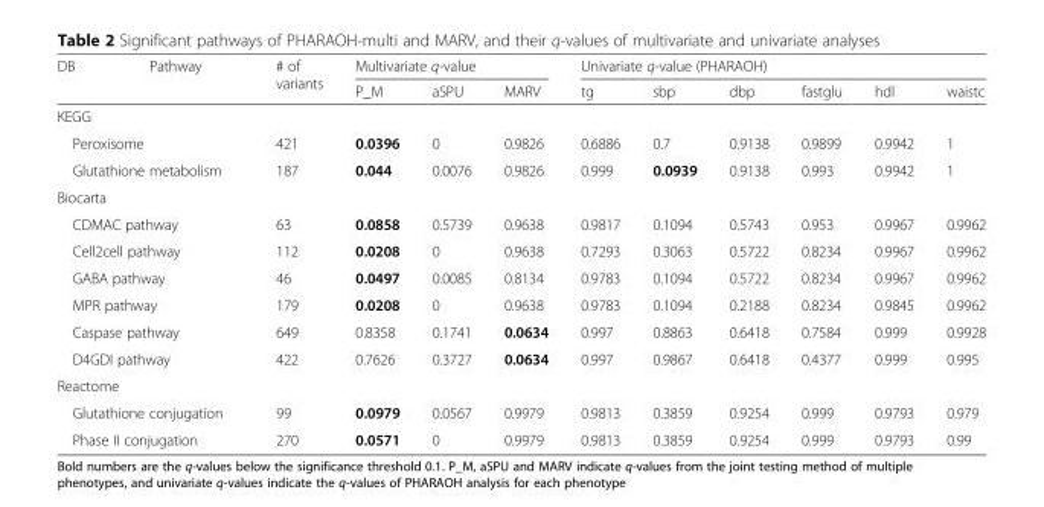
<table><thead><tr><td rowspan="2">DB</td><td rowspan="2">Pathway</td><td rowspan="2"># of variants</td><td colspan="3">Multivariate q-value</td><td colspan="6">Univariate q-value (PHARAOH)</td></tr><tr><td>P_M</td><td>aSPU</td><td>MARV</td><td>tg</td><td>sbp</td><td>dbp</td><td>fastglu</td><td>hdl</td><td>waistc</td></tr></thead><tbody><tr><td colspan="12">KEGG</td></tr><tr><td colspan="2">Peroxisome</td><td>421</td><td>0.0396</td><td>0</td><td>0.9826</td><td>0.6886</td><td>0.7</td><td>0.9138</td><td>0.9899</td><td>0.9942</td><td>1</td></tr><tr><td colspan="2">Glutathione metabolism</td><td>187</td><td>0.044</td><td>0.0076</td><td>0.9826</td><td>0.999</td><td>0.0939</td><td>0.9138</td><td>0.993</td><td>0.9942</td><td>1</td></tr><tr><td colspan="12">Biocarta</td></tr><tr><td colspan="2">CDMAC pathway</td><td>63</td><td>0.0858</td><td>0.5739</td><td>0.9638</td><td>0.9817</td><td>0.1094</td><td>0.5743</td><td>0.953</td><td>0.9967</td><td>0.9962</td></tr><tr><td colspan="2">Cell2cell pathway</td><td>112</td><td>0.0208</td><td>0</td><td>0.9638</td><td>0.7293</td><td>0.3063</td><td>0.5722</td><td>0.8234</td><td>0.9967</td><td>0.9962</td></tr><tr><td colspan="2">GABA pathway</td><td>46</td><td>0.0497</td><td>0.0085</td><td>0.8134</td><td>0.9783</td><td>0.1094</td><td>0.5722</td><td>0.8234</td><td>0.9967</td><td>0.9962</td></tr><tr><td colspan="2">MPR pathway</td><td>179</td><td>0.0208</td><td>0</td><td>0.9638</td><td>0.9783</td><td>0.1094</td><td>0.2188</td><td>0.8234</td><td>0.9845</td><td>0.9962</td></tr><tr><td colspan="2">Caspase pathway</td><td>649</td><td>0.8358</td><td>0.1741</td><td>0.0634</td><td>0.997</td><td>0.8863</td><td>0.6418</td><td>0.7584</td><td>0.999</td><td>0.9928</td></tr><tr><td colspan="2">D4GDI pathway</td><td>422</td><td>0.7626</td><td>0.3727</td><td>0.0634</td><td>0.997</td><td>0.9867</td><td>0.6418</td><td>0.4377</td><td>0.999</td><td>0.995</td></tr><tr><td colspan="12">Reactome</td></tr><tr><td colspan="2">Glutathione conjugation</td><td>99</td><td>0.0979</td><td>0.0567</td><td>0.9979</td><td>0.9813</td><td>0.3859</td><td>0.9254</td><td>0.999</td><td>0.9793</td><td>0.979</td></tr><tr><td colspan="2">Phase II conjugation</td><td>270</td><td>0.0571</td><td>0</td><td>0.9979</td><td>0.9813</td><td>0.3859</td><td>0.9254</td><td>0.999</td><td>0.9793</td><td>0.99</td></tr></tbody></table>